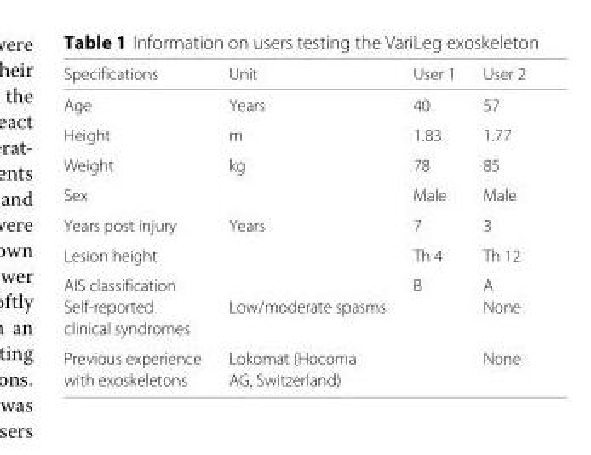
<table><thead><tr><td>Specifications</td><td>Unit</td><td>User 1</td><td>User 2</td></tr></thead><tbody><tr><td>Age</td><td>Years</td><td>40</td><td>57</td></tr><tr><td>Height</td><td>m</td><td>1.83</td><td>1.77</td></tr><tr><td>Weight</td><td>kg</td><td>78</td><td>85</td></tr><tr><td>Sex</td><td></td><td>Male</td><td>Male</td></tr><tr><td>Years post injury</td><td>Years</td><td>7</td><td>3</td></tr><tr><td>Lesion height</td><td></td><td>Th 4</td><td>Th 12</td></tr><tr><td>AIS classification</td><td></td><td>B</td><td>A</td></tr><tr><td>Self-reported</td><td>Low/moderate spasms</td><td></td><td>None</td></tr><tr><td colspan="4">clinical syndromes</td></tr><tr><td>Previous experience</td><td>Lokomat (Hocoma</td><td></td><td>None</td></tr><tr><td>with exoskeletons</td><td>AG, Switzerland)</td><td></td><td></td></tr></tbody></table>